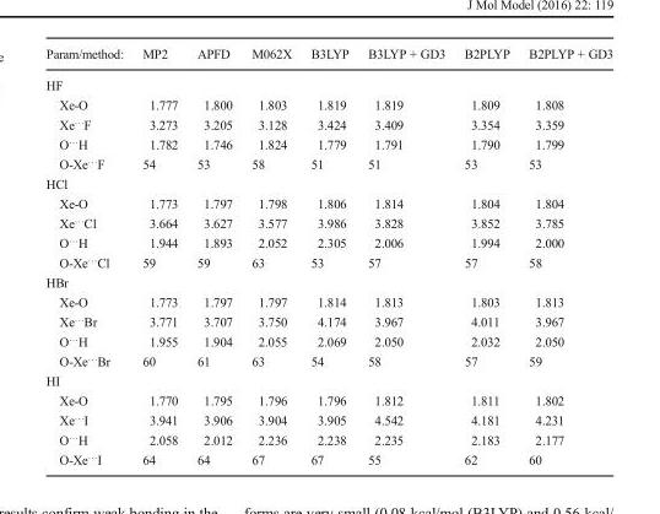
<table><thead><tr><td>Param/method:</td><td>MP2</td><td>APFD</td><td>M062X</td><td>B3LYP</td><td>B3LYP + GD3</td><td>B2PLYP</td><td>B2PLYP + GD3</td></tr></thead><tbody><tr><td colspan="8">HF</td></tr><tr><td>Xe-O</td><td>1.777</td><td>1.800</td><td>1.803</td><td>1.819</td><td>1.819</td><td>1.809</td><td>1.808</td></tr><tr><td>Xe<sup>…</sup>F</td><td>3.273</td><td>3.205</td><td>3.128</td><td>3.424</td><td>3.409</td><td>3.354</td><td>3.359</td></tr><tr><td>O<sup>…</sup>H</td><td>1.782</td><td>1.746</td><td>1.824</td><td>1.779</td><td>1.791</td><td>1.790</td><td>1.799</td></tr><tr><td>O-Xe<sup>…</sup>F</td><td>54</td><td>53</td><td>58</td><td>51</td><td>51</td><td>53</td><td>53</td></tr><tr><td colspan="8">HCl</td></tr><tr><td>Xe-O</td><td>1.773</td><td>1.797</td><td>1.798</td><td>1.806</td><td>1.814</td><td>1.804</td><td>1.804</td></tr><tr><td>Xe<sup>…</sup>Cl</td><td>3.664</td><td>3.627</td><td>3.577</td><td>3.986</td><td>3.828</td><td>3.852</td><td>3.785</td></tr><tr><td>O<sup>…</sup>H</td><td>1.944</td><td>1.893</td><td>2.052</td><td>2.305</td><td>2.006</td><td>1.994</td><td>2.000</td></tr><tr><td>O-Xe<sup>…</sup>Cl</td><td>59</td><td>59</td><td>63</td><td>53</td><td>57</td><td>57</td><td>58</td></tr><tr><td colspan="8">HBr</td></tr><tr><td>Xe-O</td><td>1.773</td><td>1.797</td><td>1.797</td><td>1.814</td><td>1.813</td><td>1.803</td><td>1.813</td></tr><tr><td>Xe<sup>…</sup>Br</td><td>3.771</td><td>3.707</td><td>3.750</td><td>4.174</td><td>3.967</td><td>4.011</td><td>3.967</td></tr><tr><td>O<sup>…</sup>H</td><td>1.955</td><td>1.904</td><td>2.055</td><td>2.069</td><td>2.050</td><td>2.032</td><td>2.050</td></tr><tr><td>O-Xe<sup>…</sup>Br</td><td>60</td><td>61</td><td>63</td><td>54</td><td>58</td><td>57</td><td>59</td></tr><tr><td colspan="8">HI</td></tr><tr><td>Xe-O</td><td>1.770</td><td>1.795</td><td>1.796</td><td>1.796</td><td>1.812</td><td>1.811</td><td>1.802</td></tr><tr><td>Xe<sup>…</sup>I</td><td>3.941</td><td>3.906</td><td>3.904</td><td>3.905</td><td>4.542</td><td>4.181</td><td>4.231</td></tr><tr><td>O<sup>…</sup>H</td><td>2.058</td><td>2.012</td><td>2.236</td><td>2.238</td><td>2.235</td><td>2.183</td><td>2.177</td></tr><tr><td>O-Xe<sup>…</sup>I</td><td>64</td><td>64</td><td>67</td><td>67</td><td>55</td><td>62</td><td>60</td></tr></tbody></table>